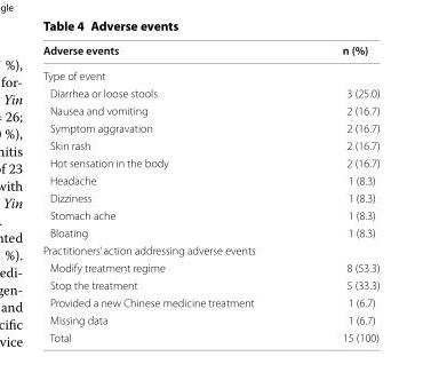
<table><thead><tr><td>Adverse events</td><td>n (%)</td></tr></thead><tbody><tr><td colspan="2">Type of event</td></tr><tr><td>Diarrhea or loose stools</td><td>3 (25.0)</td></tr><tr><td>Nausea and vomiting</td><td>2 (16.7)</td></tr><tr><td>Symptom aggravation</td><td>2 (16.7)</td></tr><tr><td>Skin rash</td><td>2 (16.7)</td></tr><tr><td>Hot sensation in the body</td><td>2 (16.7)</td></tr><tr><td>Headache</td><td>1 (8.3)</td></tr><tr><td>Dizziness</td><td>1 (8.3)</td></tr><tr><td>Stomach ache</td><td>1 (8.3)</td></tr><tr><td>Bloating</td><td>1 (8.3)</td></tr><tr><td colspan="2">Practitioners’ action addressing adverse events</td></tr><tr><td>Modify treatment regime</td><td>8 (53.3)</td></tr><tr><td>Stop the treatment</td><td>5 (33.3)</td></tr><tr><td>Provided a new Chinese medicine treatment</td><td>1 (6.7)</td></tr><tr><td>Missing data</td><td>1 (6.7)</td></tr><tr><td>Total</td><td>15 (100)</td></tr></tbody></table>